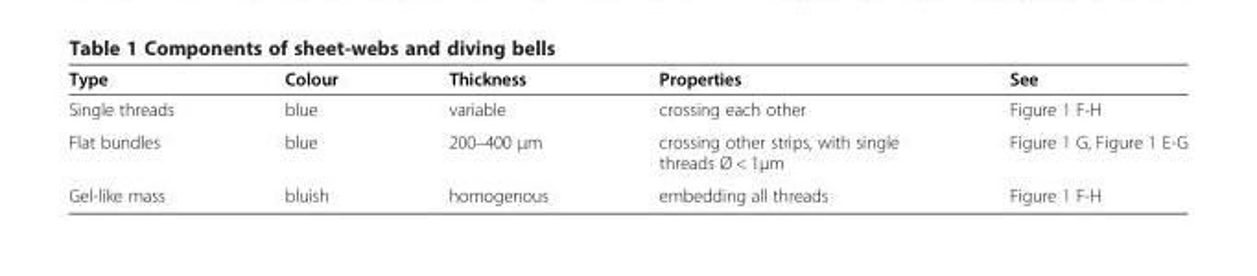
<table><thead><tr><td>Type</td><td>Colour</td><td>Thickness</td><td>Properties</td><td>See</td></tr></thead><tbody><tr><td>Single threads</td><td>blue</td><td>variable</td><td>crossing each other</td><td>Figure 1 F-H</td></tr><tr><td>Flat bundles</td><td>blue</td><td>200–400 μm</td><td>crossing other strips, with single threads Ø &lt; 1μm</td><td>Figure 1 G, Figure 1 E-G</td></tr><tr><td>Gel-like mass</td><td>bluish</td><td>homogenous</td><td>embedding all threads</td><td>Figure 1 F-H</td></tr></tbody></table>